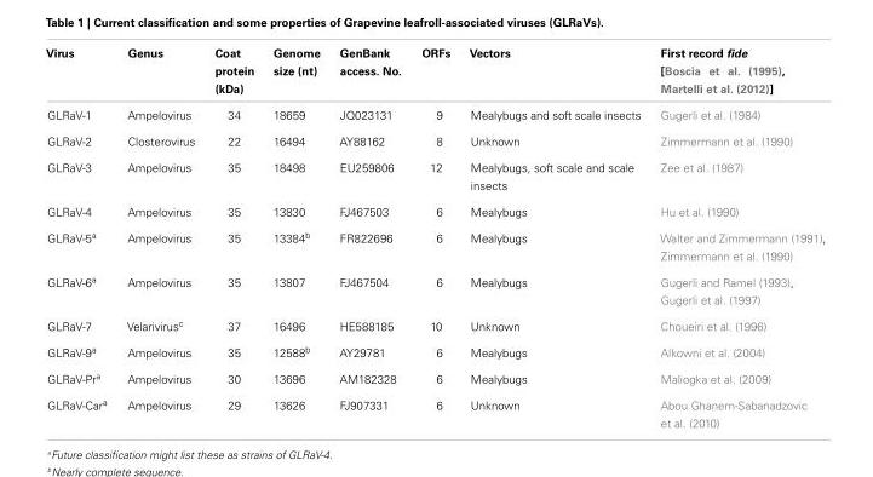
<table><thead><tr><td>Virus</td><td>Genus</td><td>Coat protein (kDa)</td><td>Genome size (nt)</td><td>GenBank access. No.</td><td>ORFs</td><td>Vectors</td><td>First record fide [Boscia et al. (1995), Martelli et al. (2012)]</td></tr></thead><tbody><tr><td>GLRaV-1</td><td>Ampelovirus</td><td>34</td><td>18659</td><td>JQ023131</td><td>9</td><td>Mealybugs and soft scale insects</td><td>Gugerli et al. (1984)</td></tr><tr><td>GLRaV-2</td><td>Closterovirus</td><td>22</td><td>16494</td><td>AY88162</td><td>8</td><td>Unknown</td><td>Zimmermann et al. (1990)</td></tr><tr><td>GLRaV-3</td><td>Ampelovirus</td><td>35</td><td>18498</td><td>EU259806</td><td>12</td><td>Mealybugs, soft scale and scale insects</td><td>Zee et al. (1987)</td></tr><tr><td>GLRaV-4</td><td>Ampelovirus</td><td>35</td><td>13830</td><td>FJ467503</td><td>6</td><td>Mealybugs</td><td>Hu et al. (1990)</td></tr><tr><td>GLRaV-5<sup>a</sup></td><td>Ampelovirus</td><td>35</td><td>13384<sup>b</sup></td><td>FR822696</td><td>6</td><td>Mealybugs</td><td>Walter and Zimmermann (1991), Zimmermann et al. (1990)</td></tr><tr><td>GLRaV-6<sup>a</sup></td><td>Ampelovirus</td><td>35</td><td>13807</td><td>FJ467504</td><td>6</td><td>Mealybugs</td><td>Gugerli and Ramel (1993), Gugerli et al. (1997)</td></tr><tr><td>GLRaV-7</td><td>Velarivirus<sup>c</sup></td><td>37</td><td>16496</td><td>HE588185</td><td>10</td><td>Unknown</td><td>Choueiri et al. (1996)</td></tr><tr><td>GLRaV-9<sup>a</sup></td><td>Ampelovirus</td><td>35</td><td>12588<sup>b</sup></td><td>AY29781</td><td>6</td><td>Mealybugs</td><td>Alkowni et al. (2004)</td></tr><tr><td>GLRaV-Pr<sup>a</sup></td><td>Ampelovirus</td><td>30</td><td>13696</td><td>AM182328</td><td>6</td><td>Mealybugs</td><td>Maliogka et al. (2009)</td></tr><tr><td>GLRaV-Car<sup>a</sup></td><td>Ampelovirus</td><td>29</td><td>13626</td><td>FJ907331</td><td>6</td><td>Unknown</td><td>Abou Ghanem-Sabanadzovic et al. (2010)</td></tr></tbody></table>